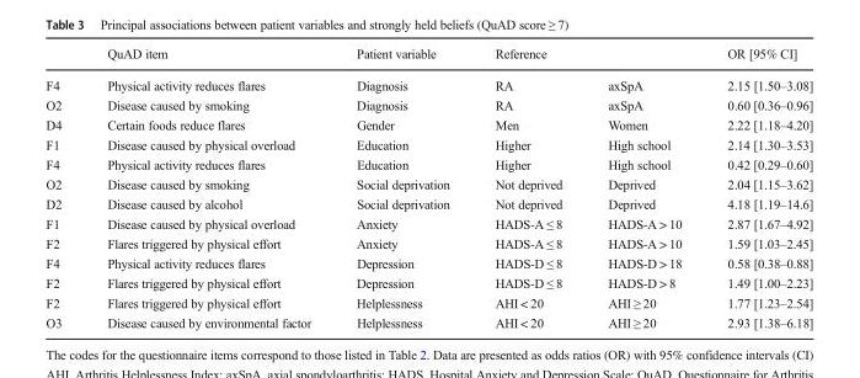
<table><thead><tr><td></td><td>QuAD item</td><td>Patient variable</td><td>Reference</td><td></td><td>OR [95% CI]</td></tr></thead><tbody><tr><td>F4</td><td>Physical activity reduces flares</td><td>Diagnosis</td><td>RA</td><td>axSpA</td><td>2.15 [1.50–3.08]</td></tr><tr><td>O2</td><td>Disease caused by smoking</td><td>Diagnosis</td><td>RA</td><td>axSpA</td><td>0.60 [0.36–0.96]</td></tr><tr><td>D4</td><td>Certain foods reduce flares</td><td>Gender</td><td>Men</td><td>Women</td><td>2.22 [1.18–4.20]</td></tr><tr><td>F1</td><td>Disease caused by physical overload</td><td>Education</td><td>Higher</td><td>High school</td><td>2.14 [1.30–3.53]</td></tr><tr><td>F4</td><td>Physical activity reduces flares</td><td>Education</td><td>Higher</td><td>High school</td><td>0.42 [0.29–0.60]</td></tr><tr><td>O2</td><td>Disease caused by smoking</td><td>Social deprivation</td><td>Not deprived</td><td>Deprived</td><td>2.04 [1.15–3.62]</td></tr><tr><td>D2</td><td>Disease caused by alcohol</td><td>Social deprivation</td><td>Not deprived</td><td>Deprived</td><td>4.18 [1.19–14.6]</td></tr><tr><td>F1</td><td>Disease caused by physical overload</td><td>Anxiety</td><td>HADS-A ≤ 8</td><td>HADS-A &gt; 10</td><td>2.87 [1.67–4.92]</td></tr><tr><td>F2</td><td>Flares triggered by physical effort</td><td>Anxiety</td><td>HADS-A ≤ 8</td><td>HADS-A &gt; 10</td><td>1.59 [1.03–2.45]</td></tr><tr><td>F4</td><td>Physical activity reduces flares</td><td>Depression</td><td>HADS-D ≤ 8</td><td>HADS-D &gt; 18</td><td>0.58 [0.38–0.88]</td></tr><tr><td>F2</td><td>Flares triggered by physical effort</td><td>Depression</td><td>HADS-D ≤ 8</td><td>HADS-D &gt; 8</td><td>1.49 [1.00–2.23]</td></tr><tr><td>F2</td><td>Flares triggered by physical effort</td><td>Helplessness</td><td>AHI &lt; 20</td><td>AHI ≥ 20</td><td>1.77 [1.23–2.54]</td></tr><tr><td>O3</td><td>Disease caused by environmental factor</td><td>Helplessness</td><td>AHI &lt; 20</td><td>AHI ≥ 20</td><td>2.93 [1.38–6.18]</td></tr></tbody></table>